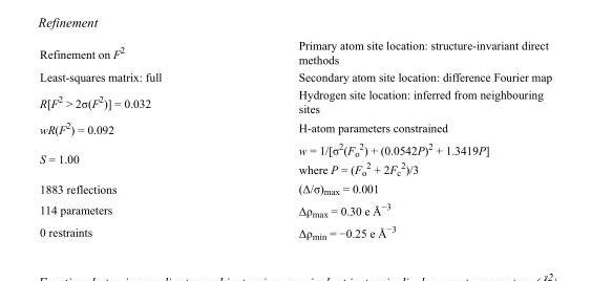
<table><tbody><tr><td>Refinement on F<sup>2</sup></td><td>Primary atom site location: structure-invariant direct methods</td></tr><tr><td>Least-squares matrix: full</td><td>Secondary atom site location: difference Fourier map</td></tr><tr><td>R[F<sup>2</sup> &gt; 2σ(F<sup>2</sup>)] = 0.032</td><td>Hydrogen site location: inferred from neighbouring sites</td></tr><tr><td>wR(F<sup>2</sup>) = 0.092</td><td>H-atom parameters constrained</td></tr><tr><td>S = 1.00</td><td>w = 1/[σ<sup>2</sup>(F<sub>o</sub> <sup>2</sup>) + (0.0542P)<sup>2</sup> + 1.3419P] where P = (F<sub>o</sub> <sup>2</sup> + 2F<sub>c</sub> <sup>2</sup>)/3</td></tr><tr><td>1883 reflections</td><td>(Δ/σ)<sub>max</sub> = 0.001</td></tr><tr><td>114 parameters</td><td>Δρ<sub>max</sub> = 0.30 e Å<sup>−3</sup></td></tr><tr><td>0 restraints</td><td>Δρ<sub>min</sub> = −0.25 e Å<sup>−3</sup></td></tr></tbody></table>